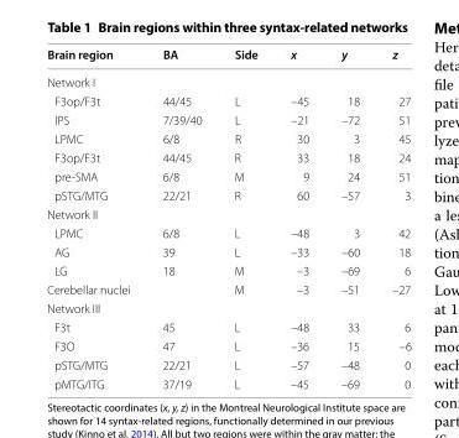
<table><thead><tr><td>Brain region</td><td>BA</td><td>Side</td><td>x</td><td>y</td><td>z</td></tr></thead><tbody><tr><td colspan="6">Network I</td></tr><tr><td>F3op/F3t</td><td>44/45</td><td>L</td><td>–45</td><td>18</td><td>27</td></tr><tr><td>IPS</td><td>7/39/40</td><td>L</td><td>–21</td><td>–72</td><td>51</td></tr><tr><td>LPMC</td><td>6/8</td><td>R</td><td>30</td><td>3</td><td>45</td></tr><tr><td>F3op/F3t</td><td>44/45</td><td>R</td><td>33</td><td>18</td><td>24</td></tr><tr><td>pre-SMA</td><td>6/8</td><td>M</td><td>9</td><td>24</td><td>51</td></tr><tr><td>pSTG/MTG</td><td>22/21</td><td>R</td><td>60</td><td>–57</td><td>3</td></tr><tr><td colspan="6">Network II</td></tr><tr><td>LPMC</td><td>6/8</td><td>L</td><td>–48</td><td>3</td><td>42</td></tr><tr><td>AG</td><td>39</td><td>L</td><td>–33</td><td>–60</td><td>18</td></tr><tr><td>LG</td><td>18</td><td>M</td><td>–3</td><td>–69</td><td>6</td></tr><tr><td>Cerebellar nuclei</td><td></td><td>M</td><td>–3</td><td>–51</td><td>–27</td></tr><tr><td colspan="6">Network III</td></tr><tr><td>F3t</td><td>45</td><td>L</td><td>–48</td><td>33</td><td>6</td></tr><tr><td>F3O</td><td>47</td><td>L</td><td>–36</td><td>15</td><td>–6</td></tr><tr><td>pSTG/MTG</td><td>22/21</td><td>L</td><td>–57</td><td>–48</td><td>0</td></tr><tr><td>pMTG/ITG</td><td>37/19</td><td>L</td><td>–45</td><td>–69</td><td>0</td></tr></tbody></table>